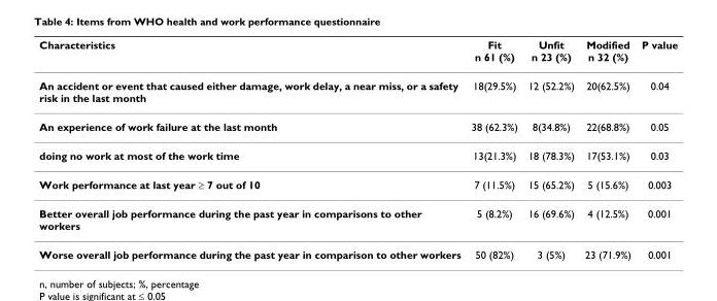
<table><thead><tr><td>Characteristics</td><td>Fit n 61 (%)</td><td>Unfit n 23 (%)</td><td>Modified n 32 (%)</td><td>P value</td></tr></thead><tbody><tr><td>An accident or event that caused either damage, work delay, a near miss, or a safety risk in the last month</td><td>18(29.5%)</td><td>12 (52.2%)</td><td>20(62.5%)</td><td>0.04</td></tr><tr><td>An experience of work failure at the last month</td><td>38 (62.3%)</td><td>8(34.8%)</td><td>22(68.8%)</td><td>0.05</td></tr><tr><td>doing no work at most of the work time</td><td>13(21.3%)</td><td>18 (78.3%)</td><td>17(53.1%)</td><td>0.03</td></tr><tr><td>Work performance at last year ≥ 7 out of 10</td><td>7 (11.5%)</td><td>15 (65.2%)</td><td>5 (15.6%)</td><td>0.003</td></tr><tr><td>Better overall job performance during the past year in comparisons to other workers</td><td>5 (8.2%)</td><td>16 (69.6%)</td><td>4 (12.5%)</td><td>0.001</td></tr><tr><td>Worse overall job performance during the past year in comparison to other workers</td><td>50 (82%)</td><td>3 (5%)</td><td>23 (71.9%)</td><td>0.001</td></tr></tbody></table>